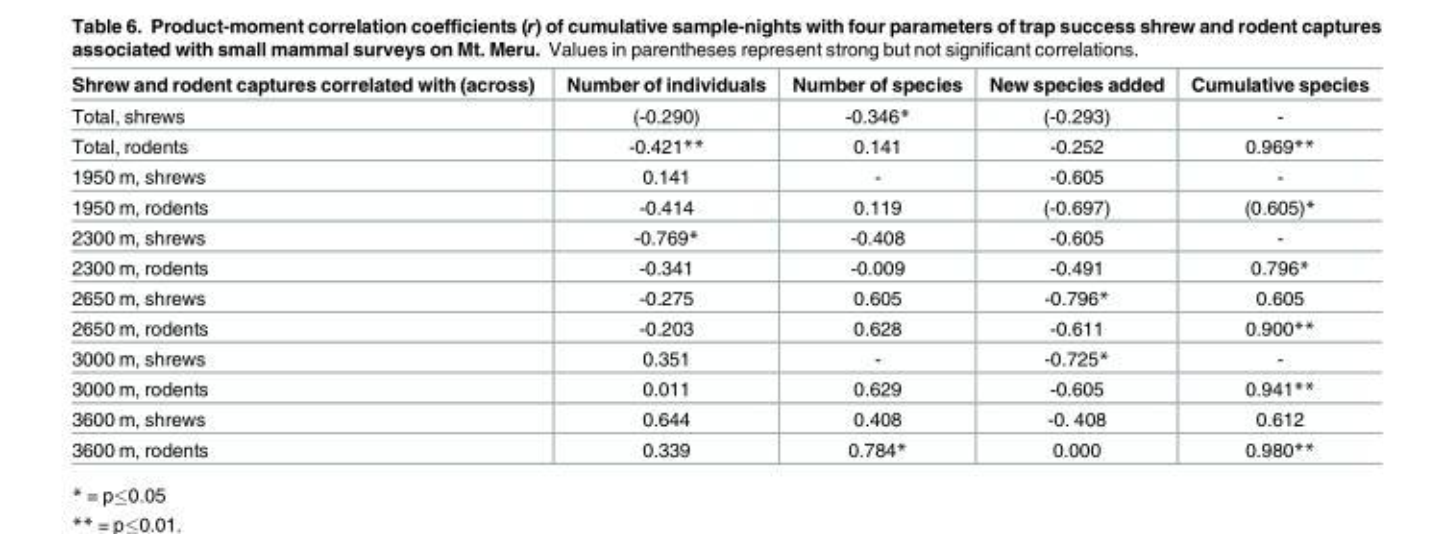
<table><thead><tr><td>Shrew and rodent captures correlated with (across)</td><td>Number of individuals</td><td>Number of species</td><td>New species added</td><td>Cumulative species</td></tr></thead><tbody><tr><td>Total, shrews</td><td>(-0.290)</td><td>-0.346*</td><td>(-0.293)</td><td>-</td></tr><tr><td>Total, rodents</td><td>-0.421**</td><td>0.141</td><td>-0.252</td><td>0.969**</td></tr><tr><td>1950 m, shrews</td><td>0.141</td><td>-</td><td>-0.605</td><td>-</td></tr><tr><td>1950 m, rodents</td><td>-0.414</td><td>0.119</td><td>(-0.697)</td><td>(0.605)*</td></tr><tr><td>2300 m, shrews</td><td>-0.769*</td><td>-0.408</td><td>-0.605</td><td>-</td></tr><tr><td>2300 m, rodents</td><td>-0.341</td><td>-0.009</td><td>-0.491</td><td>0.796*</td></tr><tr><td>2650 m, shrews</td><td>-0.275</td><td>0.605</td><td>-0.796*</td><td>0.605</td></tr><tr><td>2650 m, rodents</td><td>-0.203</td><td>0.628</td><td>-0.611</td><td>0.900**</td></tr><tr><td>3000 m, shrews</td><td>0.351</td><td>-</td><td>-0.725*</td><td>-</td></tr><tr><td>3000 m, rodents</td><td>0.011</td><td>0.629</td><td>-0.605</td><td>0.941**</td></tr><tr><td>3600 m, shrews</td><td>0.644</td><td>0.408</td><td>-0. 408</td><td>0.612</td></tr><tr><td>3600 m, rodents</td><td>0.339</td><td>0.784*</td><td>0.000</td><td>0.980**</td></tr></tbody></table>